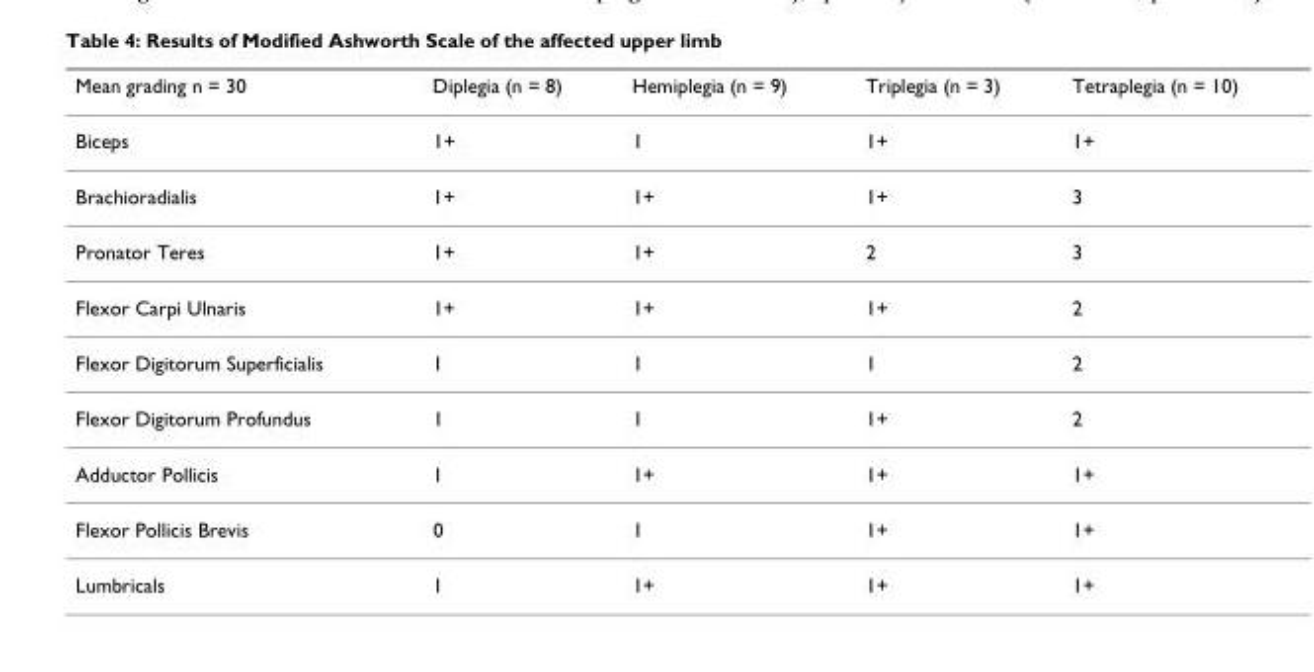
<table><thead><tr><td>Mean grading n = 30</td><td>Diplegia (n = 8)</td><td>Hemiplegia (n = 9)</td><td>Triplegia (n = 3)</td><td>Tetraplegia (n = 10)</td></tr></thead><tbody><tr><td>Biceps</td><td>1+</td><td>1</td><td>1+</td><td>1+</td></tr><tr><td>Brachioradialis</td><td>1+</td><td>1+</td><td>1+</td><td>3</td></tr><tr><td>Pronator Teres</td><td>1+</td><td>1+</td><td>2</td><td>3</td></tr><tr><td>Flexor Carpi Ulnaris</td><td>1+</td><td>1+</td><td>1+</td><td>2</td></tr><tr><td>Flexor Digitorum Superficialis</td><td>1</td><td>1</td><td>1</td><td>2</td></tr><tr><td>Flexor Digitorum Profundus</td><td>1</td><td>1</td><td>1+</td><td>2</td></tr><tr><td>Adductor Pollicis</td><td>1</td><td>1+</td><td>1+</td><td>1+</td></tr><tr><td>Flexor Pollicis Brevis</td><td>0</td><td>1</td><td>1+</td><td>1+</td></tr><tr><td>Lumbricals</td><td>1</td><td>1+</td><td>1+</td><td>1+</td></tr></tbody></table>